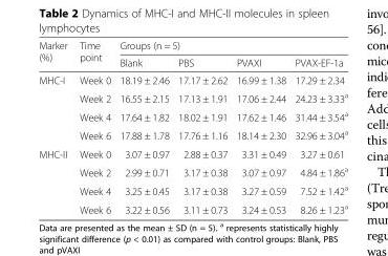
<table><thead><tr><td rowspan="2">Marker (%)</td><td rowspan="2">Time point</td><td colspan="4">Groups (n = 5)</td></tr><tr><td>Blank</td><td>PBS</td><td>PVAXI</td><td>PVAX-EF-1a</td></tr></thead><tbody><tr><td rowspan="4">MHC-I</td><td>Week 0</td><td>18.19 ± 2.46</td><td>17.17 ± 2.62</td><td>16.99 ± 1.38</td><td>17.29 ± 2.34</td></tr><tr><td>Week 2</td><td>16.55 ± 2.15</td><td>17.13 ± 1.91</td><td>17.06 ± 2.44</td><td>24.23 ± 3.33<sup>a</sup></td></tr><tr><td>Week 4</td><td>17.64 ± 1.82</td><td>18.02 ± 1.91</td><td>17.62 ± 1.46</td><td>31.44 ± 3.54<sup>a</sup></td></tr><tr><td>Week 6</td><td>17.88 ± 1.78</td><td>17.76 ± 1.16</td><td>18.14 ± 2.30</td><td>32.96 ± 3.04<sup>a</sup></td></tr><tr><td rowspan="4">MHC-II</td><td>Week 0</td><td>3.07 ± 0.97</td><td>2.88 ± 0.37</td><td>3.31 ± 0.49</td><td>3.27 ± 0.61</td></tr><tr><td>Week 2</td><td>2.99 ± 0.71</td><td>3.17 ± 0.38</td><td>3.07 ± 0.97</td><td>4.84 ± 1.86<sup>a</sup></td></tr><tr><td>Week 4</td><td>3.25 ± 0.45</td><td>3.17 ± 0.38</td><td>3.27 ± 0.59</td><td>7.52 ± 1.42<sup>a</sup></td></tr><tr><td>Week 6</td><td>3.22 ± 0.56</td><td>3.11 ± 0.73</td><td>3.24 ± 0.53</td><td>8.26 ± 1.23<sup>a</sup></td></tr></tbody></table>